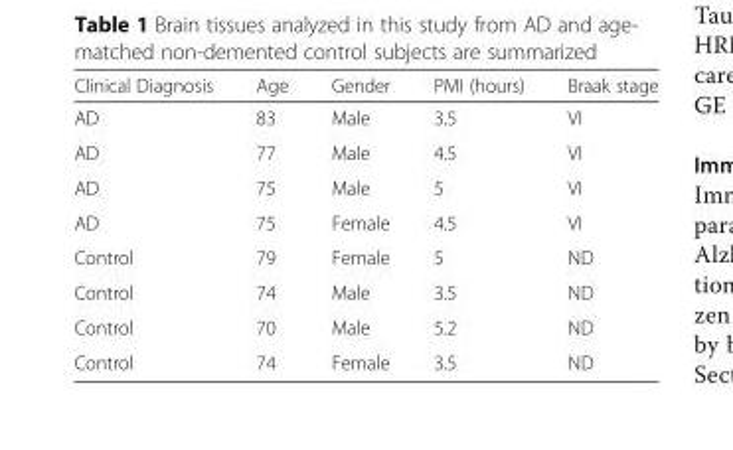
<table><thead><tr><td>Clinical Diagnosis</td><td>Age</td><td>Gender</td><td>PMI (hours)</td><td>Braak stage</td></tr></thead><tbody><tr><td>AD</td><td>83</td><td>Male</td><td>3.5</td><td>VI</td></tr><tr><td>AD</td><td>77</td><td>Male</td><td>4.5</td><td>VI</td></tr><tr><td>AD</td><td>75</td><td>Male</td><td>5</td><td>VI</td></tr><tr><td>AD</td><td>75</td><td>Female</td><td>4.5</td><td>VI</td></tr><tr><td>Control</td><td>79</td><td>Female</td><td>5</td><td>ND</td></tr><tr><td>Control</td><td>74</td><td>Male</td><td>3.5</td><td>ND</td></tr><tr><td>Control</td><td>70</td><td>Male</td><td>5.2</td><td>ND</td></tr><tr><td>Control</td><td>74</td><td>Female</td><td>3.5</td><td>ND</td></tr></tbody></table>